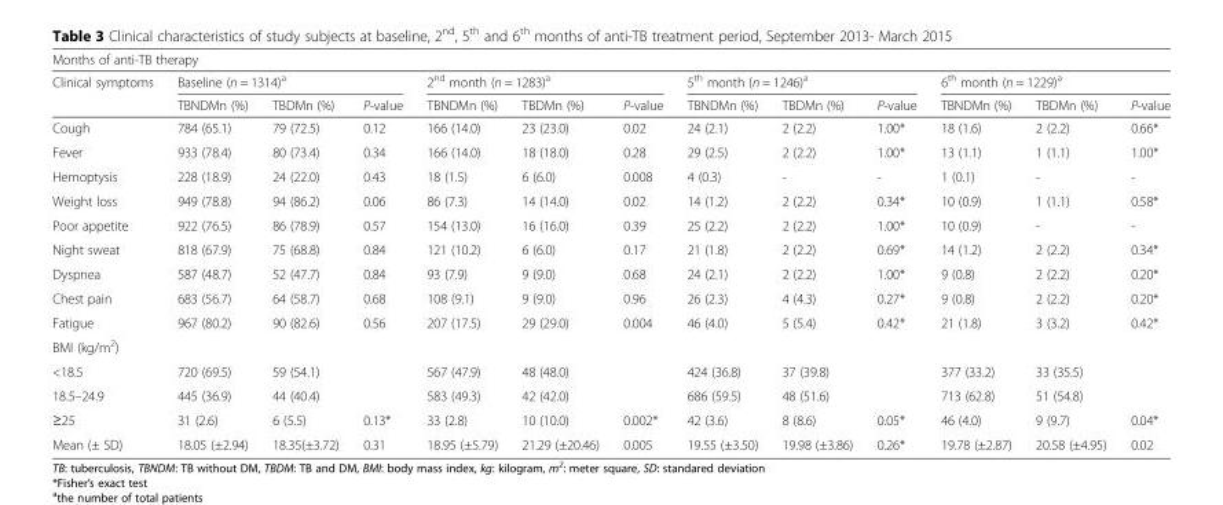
<table><thead><tr><td colspan="13">Months of anti-TB therapy</td></tr><tr><td rowspan="2">Clinical symptoms</td><td colspan="3">Baseline (n = 1314)<sup>a</sup></td><td colspan="3">2<sup>nd</sup> month (n = 1283)<sup>a</sup></td><td colspan="3">5<sup>th</sup> month (n = 1246)<sup>a</sup></td><td colspan="3">6<sup>th</sup> month (n = 1229)<sup>a</sup></td></tr><tr><td>TBNDMn (%)</td><td>TBDMn (%)</td><td>P-value</td><td>TBNDMn (%)</td><td>TBDMn (%)</td><td>P-value</td><td>TBNDMn (%)</td><td>TBDMn (%)</td><td>P-value</td><td>TBNDMn (%)</td><td>TBDMn (%)</td><td>P-value</td></tr></thead><tbody><tr><td>Cough</td><td>784 (65.1)</td><td>79 (72.5)</td><td>0.12</td><td>166 (14.0)</td><td>23 (23.0)</td><td>0.02</td><td>24 (2.1)</td><td>2 (2.2)</td><td>1.00*</td><td>18 (1.6)</td><td>2 (2.2)</td><td>0.66*</td></tr><tr><td>Fever</td><td>933 (78.4)</td><td>80 (73.4)</td><td>0.34</td><td>166 (14.0)</td><td>18 (18.0)</td><td>0.28</td><td>29 (2.5)</td><td>2 (2.2)</td><td>1.00*</td><td>13 (1.1)</td><td>1 (1.1)</td><td>1.00*</td></tr><tr><td>Hemoptysis</td><td>228 (18.9)</td><td>24 (22.0)</td><td>0.43</td><td>18 (1.5)</td><td>6 (6.0)</td><td>0.008</td><td>4 (0.3)</td><td>-</td><td>-</td><td>1 (0.1)</td><td>-</td><td>-</td></tr><tr><td>Weight loss</td><td>949 (78.8)</td><td>94 (86.2)</td><td>0.06</td><td>86 (7.3)</td><td>14 (14.0)</td><td>0.02</td><td>14 (1.2)</td><td>2 (2.2)</td><td>0.34*</td><td>10 (0.9)</td><td>1 (1.1)</td><td>0.58*</td></tr><tr><td>Poor appetite</td><td>922 (76.5)</td><td>86 (78.9)</td><td>0.57</td><td>154 (13.0)</td><td>16 (16.0)</td><td>0.39</td><td>25 (2.2)</td><td>2 (2.2)</td><td>1.00*</td><td>10 (0.9)</td><td>-</td><td>-</td></tr><tr><td>Night sweat</td><td>818 (67.9)</td><td>75 (68.8)</td><td>0.84</td><td>121 (10.2)</td><td>6 (6.0)</td><td>0.17</td><td>21 (1.8)</td><td>2 (2.2)</td><td>0.69*</td><td>14 (1.2)</td><td>2 (2.2)</td><td>0.34*</td></tr><tr><td>Dyspnea</td><td>587 (48.7)</td><td>52 (47.7)</td><td>0.84</td><td>93 (7.9)</td><td>9 (9.0)</td><td>0.68</td><td>24 (2.1)</td><td>2 (2.2)</td><td>1.00*</td><td>9 (0.8)</td><td>2 (2.2)</td><td>0.20*</td></tr><tr><td>Chest pain</td><td>683 (56.7)</td><td>64 (58.7)</td><td>0.68</td><td>108 (9.1)</td><td>9 (9.0)</td><td>0.96</td><td>26 (2.3)</td><td>4 (4.3)</td><td>0.27*</td><td>9 (0.8)</td><td>2 (2.2)</td><td>0.20*</td></tr><tr><td>Fatigue</td><td>967 (80.2)</td><td>90 (82.6)</td><td>0.56</td><td>207 (17.5)</td><td>29 (29.0)</td><td>0.004</td><td>46 (4.0)</td><td>5 (5.4)</td><td>0.42*</td><td>21 (1.8)</td><td>3 (3.2)</td><td>0.42*</td></tr><tr><td colspan="13">BMI (kg/m<sup>2</sup>)</td></tr><tr><td>&lt;18.5</td><td>720 (69.5)</td><td>59 (54.1)</td><td></td><td>567 (47.9)</td><td>48 (48.0)</td><td></td><td>424 (36.8)</td><td>37 (39.8)</td><td></td><td>377 (33.2)</td><td>33 (35.5)</td><td></td></tr><tr><td>18.5–24.9</td><td>445 (36.9)</td><td>44 (40.4)</td><td></td><td>583 (49.3)</td><td>42 (42.0)</td><td></td><td>686 (59.5)</td><td>48 (51.6)</td><td></td><td>713 (62.8)</td><td>51 (54.8)</td><td></td></tr><tr><td>≥25</td><td>31 (2.6)</td><td>6 (5.5)</td><td>0.13*</td><td>33 (2.8)</td><td>10 (10.0)</td><td>0.002*</td><td>42 (3.6)</td><td>8 (8.6)</td><td>0.05*</td><td>46 (4.0)</td><td>9 (9.7)</td><td>0.04*</td></tr><tr><td>Mean (± SD)</td><td>18.05 (±2.94)</td><td>18.35(±3.72)</td><td>0.31</td><td>18.95 (±5.79)</td><td>21.29 (±20.46)</td><td>0.005</td><td>19.55 (±3.50)</td><td>19.98 (±3.86)</td><td>0.26*</td><td>19.78 (±2.87)</td><td>20.58 (±4.95)</td><td>0.02</td></tr></tbody></table>